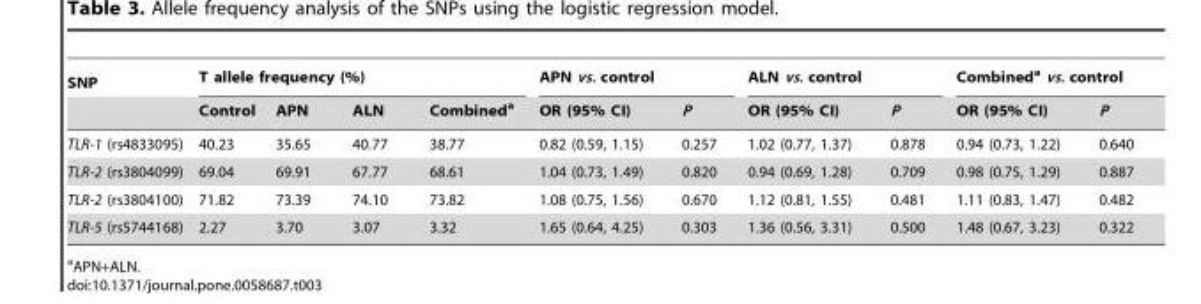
<table><thead><tr><td rowspan="2">SNP</td><td colspan="4">T allele frequency (%)</td><td colspan="2">APN vs. control</td><td colspan="2">ALN vs. control</td><td colspan="2">Combined<sup>a</sup> vs. control</td></tr><tr><td>Control</td><td>APN</td><td>ALN</td><td>Combined<sup>a</sup></td><td>OR (95% CI)</td><td>P</td><td>OR (95% CI)</td><td>P</td><td>OR (95% CI)</td><td>P</td></tr></thead><tbody><tr><td>TLR-1 (rs4833095)</td><td>40.23</td><td>35.65</td><td>40.77</td><td>38.77</td><td>0.82 (0.59, 1.15)</td><td>0.257</td><td>1.02 (0.77, 1.37)</td><td>0.878</td><td>0.94 (0.73, 1.22)</td><td>0.640</td></tr><tr><td>TLR-2 (rs3804099)</td><td>69.04</td><td>69.91</td><td>67.77</td><td>68.61</td><td>1.04 (0.73, 1.49)</td><td>0.820</td><td>0.94 (0.69, 1.28)</td><td>0.709</td><td>0.98 (0.75, 1.29)</td><td>0.887</td></tr><tr><td>TLR-2 (rs3804100)</td><td>71.82</td><td>73.39</td><td>74.10</td><td>73.82</td><td>1.08 (0.75, 1.56)</td><td>0.670</td><td>1.12 (0.81, 1.55)</td><td>0.481</td><td>1.11 (0.83, 1.47)</td><td>0.482</td></tr><tr><td>TLR-5 (rs5744168)</td><td>2.27</td><td>3.70</td><td>3.07</td><td>3.32</td><td>1.65 (0.64, 4.25)</td><td>0.303</td><td>1.36 (0.56, 3.31)</td><td>0.500</td><td>1.48 (0.67, 3.23)</td><td>0.322</td></tr></tbody></table>